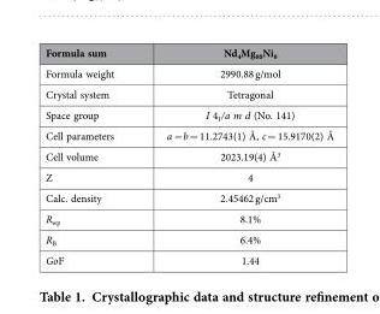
<table><thead><tr><td>Formula sum</td><td>Nd<sub>4</sub>Mg<sub>80</sub>Ni<sub>8</sub></td></tr></thead><tbody><tr><td>Formula weight</td><td>2990.88 g/mol</td></tr><tr><td>Crystal system</td><td>Tetragonal</td></tr><tr><td>Space group</td><td>I 4<sub>1</sub>/a m d (No. 141)</td></tr><tr><td>Cell parameters</td><td>a = b = 11.2743(1) Å, c = 15.9170(2) Å</td></tr><tr><td>Cell volume</td><td>2023.19(4) Å<sup>3</sup></td></tr><tr><td>Z</td><td>4</td></tr><tr><td>Calc. density</td><td>2.45462 g/cm<sup>3</sup></td></tr><tr><td>R<sub>wp</sub></td><td>8.1%</td></tr><tr><td>R<sub>B</sub></td><td>6.4%</td></tr><tr><td>GoF</td><td>1.44</td></tr></tbody></table>